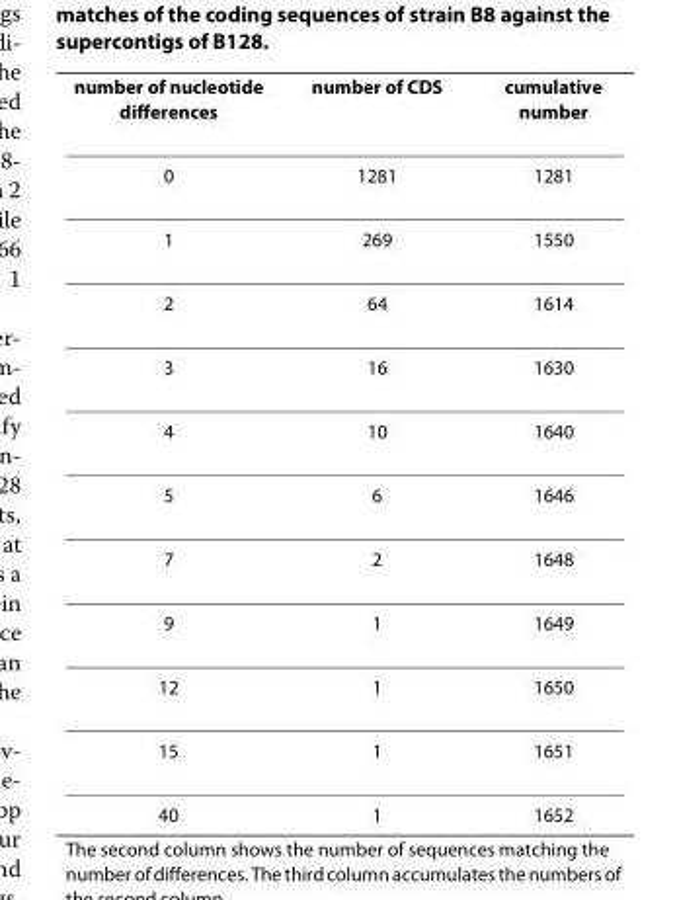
<table><thead><tr><td>number of nucleotide differences</td><td>number of CDS</td><td>cumulative number</td></tr></thead><tbody><tr><td>0</td><td>1281</td><td>1281</td></tr><tr><td>1</td><td>269</td><td>1550</td></tr><tr><td>2</td><td>64</td><td>1614</td></tr><tr><td>3</td><td>16</td><td>1630</td></tr><tr><td>4</td><td>10</td><td>1640</td></tr><tr><td>5</td><td>6</td><td>1646</td></tr><tr><td>7</td><td>2</td><td>1648</td></tr><tr><td>9</td><td>1</td><td>1649</td></tr><tr><td>12</td><td>1</td><td>1650</td></tr><tr><td>15</td><td>1</td><td>1651</td></tr><tr><td>40</td><td>1</td><td>1652</td></tr></tbody></table>